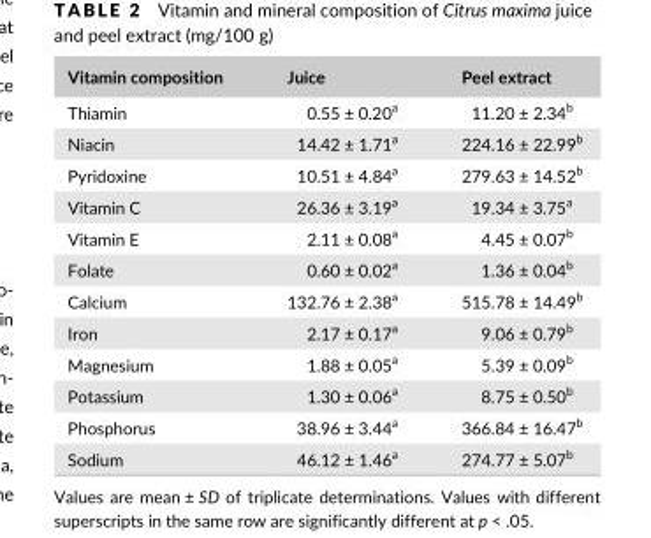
<table><thead><tr><td>Vitamin composition</td><td>Juice</td><td>Peel extract</td></tr></thead><tbody><tr><td>Thiamin</td><td>0.55 ± 0.20<sup>a</sup></td><td>11.20 ± 2.34<sup>b</sup></td></tr><tr><td>Niacin</td><td>14.42 ± 1.71<sup>a</sup></td><td>224.16 ± 22.99<sup>b</sup></td></tr><tr><td>Pyridoxine</td><td>10.51 ± 4.84<sup>a</sup></td><td>279.63 ± 14.52<sup>b</sup></td></tr><tr><td>Vitamin C</td><td>26.36 ± 3.19<sup>a</sup></td><td>19.34 ± 3.75<sup>a</sup></td></tr><tr><td>Vitamin E</td><td>2.11 ± 0.08<sup>a</sup></td><td>4.45 ± 0.07<sup>b</sup></td></tr><tr><td>Folate</td><td>0.60 ± 0.02<sup>a</sup></td><td>1.36 ± 0.04<sup>b</sup></td></tr><tr><td>Calcium</td><td>132.76 ± 2.38<sup>a</sup></td><td>515.78 ± 14.49<sup>b</sup></td></tr><tr><td>Iron</td><td>2.17 ± 0.17<sup>a</sup></td><td>9.06 ± 0.79<sup>b</sup></td></tr><tr><td>Magnesium</td><td>1.88 ± 0.05<sup>a</sup></td><td>5.39 ± 0.09<sup>b</sup></td></tr><tr><td>Potassium</td><td>1.30 ± 0.06<sup>a</sup></td><td>8.75 ± 0.50<sup>b</sup></td></tr><tr><td>Phosphorus</td><td>38.96 ± 3.44<sup>a</sup></td><td>366.84 ± 16.47<sup>b</sup></td></tr><tr><td>Sodium</td><td>46.12 ± 1.46<sup>a</sup></td><td>274.77 ± 5.07<sup>b</sup></td></tr></tbody></table>